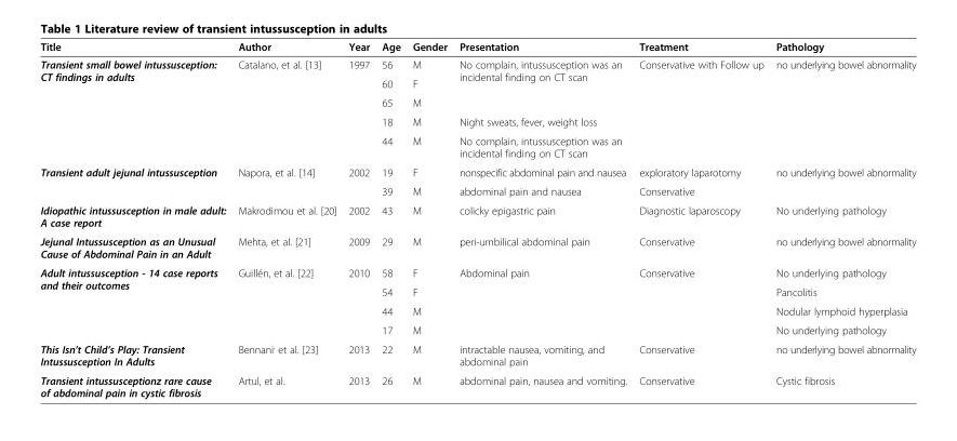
<table><thead><tr><td>Title</td><td>Author</td><td>Year</td><td>Age</td><td>Gender</td><td>Presentation</td><td>Treatment</td><td>Pathology</td></tr></thead><tbody><tr><td rowspan="5">Transient small bowel intussusception: CT findings in adults</td><td rowspan="5">Catalano, et al. [13]</td><td rowspan="5">1997</td><td>56</td><td>M</td><td rowspan="3">No complain, intussusception was an incidental finding on CT scan</td><td rowspan="5">Conservative with Follow up</td><td rowspan="5">no underlying bowel abnormality</td></tr><tr><td>60</td><td>F</td></tr><tr><td>65</td><td>M</td></tr><tr><td>18</td><td>M</td><td>Night sweats, fever, weight loss</td></tr><tr><td>44</td><td>M</td><td>No complain, intussusception was an incidental finding on CT scan</td></tr><tr><td rowspan="2">Transient adult jejunal intussusception</td><td rowspan="2">Napora, et al. [14]</td><td rowspan="2">2002</td><td>19</td><td>F</td><td>nonspecific abdominal pain and nausea</td><td>exploratory laparotomy</td><td rowspan="2">no underlying bowel abnormality</td></tr><tr><td>39</td><td>M</td><td>abdominal pain and nausea</td><td>Conservative</td></tr><tr><td>Idiopathic intussusception in male adult: A case report</td><td>Makrodimou et al. [20]</td><td>2002</td><td>43</td><td>M</td><td>colicky epigastric pain</td><td>Diagnostic laparoscopy</td><td>No underlying pathology</td></tr><tr><td>Jejunal Intussusception as an Unusual Cause of Abdominal Pain in an Adult</td><td>Mehta, et al. [21]</td><td>2009</td><td>29</td><td>M</td><td>peri-umbilical abdominal pain</td><td>Conservative</td><td>no underlying bowel abnormality</td></tr><tr><td rowspan="4">Adult intussusception - 14 case reports and their outcomes</td><td rowspan="4">Guillén, et al. [22]</td><td rowspan="4">2010</td><td>58</td><td>F</td><td rowspan="4">Abdominal pain</td><td rowspan="4">Conservative</td><td>No underlying pathology</td></tr><tr><td>54</td><td>F</td><td>Pancolitis</td></tr><tr><td>44</td><td>M</td><td>Nodular lymphoid hyperplasia</td></tr><tr><td>17</td><td>M</td><td>No underlying pathology</td></tr><tr><td>This Isn’t Child’s Play: Transient Intussusception In Adults</td><td>Bennani<sup>,</sup> et al. [23]</td><td>2013</td><td>22</td><td>M</td><td>intractable nausea, vomiting, and abdominal pain</td><td>Conservative</td><td>no underlying bowel abnormality</td></tr><tr><td>Transient intussusceptionz rare cause of abdominal pain in cystic fibrosis</td><td>Artul, et al.</td><td>2013</td><td>26</td><td>M</td><td>abdominal pain, nausea and vomiting.</td><td>Conservative</td><td>Cystic fibrosis</td></tr></tbody></table>